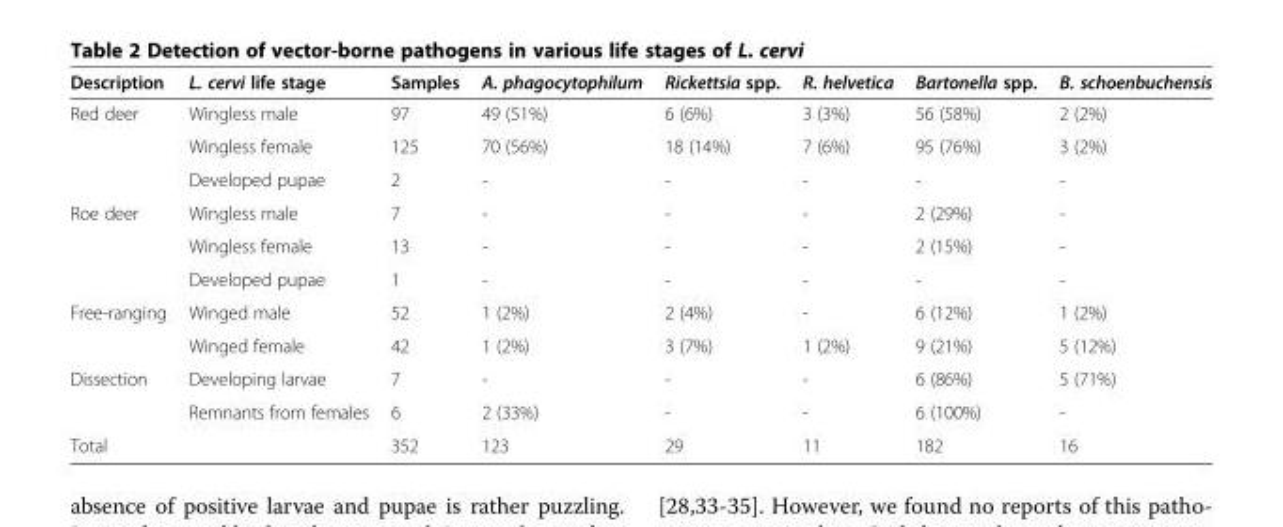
<table><thead><tr><td>Description</td><td>L. cervi life stage</td><td>Samples</td><td>A. phagocytophilum</td><td>Rickettsia spp.</td><td>R. helvetica</td><td>Bartonella spp.</td><td>B. schoenbuchensis</td></tr></thead><tbody><tr><td rowspan="3">Red deer</td><td>Wingless male</td><td>97</td><td>49 (51%)</td><td>6 (6%)</td><td>3 (3%)</td><td>56 (58%)</td><td>2 (2%)</td></tr><tr><td>Wingless female</td><td>125</td><td>70 (56%)</td><td>18 (14%)</td><td>7 (6%)</td><td>95 (76%)</td><td>3 (2%)</td></tr><tr><td>Developed pupae</td><td>2</td><td>-</td><td>-</td><td>-</td><td>-</td><td>-</td></tr><tr><td rowspan="3">Roe deer</td><td>Wingless male</td><td>7</td><td>-</td><td>-</td><td>-</td><td>2 (29%)</td><td>-</td></tr><tr><td>Wingless female</td><td>13</td><td>-</td><td>-</td><td>-</td><td>2 (15%)</td><td>-</td></tr><tr><td>Developed pupae</td><td>1</td><td>-</td><td>-</td><td>-</td><td>-</td><td>-</td></tr><tr><td rowspan="2">Free-ranging</td><td>Winged male</td><td>52</td><td>1 (2%)</td><td>2 (4%)</td><td>-</td><td>6 (12%)</td><td>1 (2%)</td></tr><tr><td>Winged female</td><td>42</td><td>1 (2%)</td><td>3 (7%)</td><td>1 (2%)</td><td>9 (21%)</td><td>5 (12%)</td></tr><tr><td rowspan="2">Dissection</td><td>Developing larvae</td><td>7</td><td>-</td><td>-</td><td>-</td><td>6 (86%)</td><td>5 (71%)</td></tr><tr><td>Remnants from females</td><td>6</td><td>2 (33%)</td><td>-</td><td>-</td><td>6 (100%)</td><td>-</td></tr><tr><td>Total</td><td></td><td>352</td><td>123</td><td>29</td><td>11</td><td>182</td><td>16</td></tr></tbody></table>